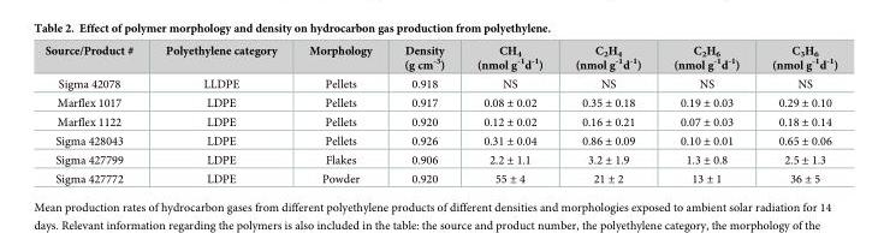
<table><thead><tr><td>Source/Product #</td><td>Polyethylene category</td><td>Morphology</td><td>Density (g cm<sup>-3</sup>)</td><td>CH<sub>4</sub> (nmol g<sup>-1</sup>d<sup>-1</sup>)</td><td>C<sub>2</sub>H<sub>4</sub> (nmol g<sup>-1</sup>d<sup>-1</sup>)</td><td>C<sub>2</sub>H<sub>6</sub> (nmol g<sup>-1</sup>d<sup>-1</sup>)</td><td>C<sub>3</sub>H<sub>6</sub> (nmol g<sup>-1</sup>d<sup>-1</sup>)</td></tr></thead><tbody><tr><td>Sigma 42078</td><td>LLDPE</td><td>Pellets</td><td>0.918</td><td>NS</td><td>NS</td><td>NS</td><td>NS</td></tr><tr><td>Marflex 1017</td><td>LDPE</td><td>Pellets</td><td>0.917</td><td>0.08 ± 0.02</td><td>0.35 ± 0.18</td><td>0.19 ± 0.03</td><td>0.29 ± 0.10</td></tr><tr><td>Marflex 1122</td><td>LDPE</td><td>Pellets</td><td>0.920</td><td>0.12 ± 0.02</td><td>0.16 ± 0.21</td><td>0.07 ± 0.03</td><td>0.18 ± 0.14</td></tr><tr><td>Sigma 428043</td><td>LDPE</td><td>Pellets</td><td>0.926</td><td>0.31 ± 0.04</td><td>0.86 ± 0.09</td><td>0.10 ± 0.01</td><td>0.65 ± 0.06</td></tr><tr><td>Sigma 427799</td><td>LDPE</td><td>Flakes</td><td>0.906</td><td>2.2 ± 1.1</td><td>3.2 ± 1.9</td><td>1.3 ± 0.8</td><td>2.5 ± 1.3</td></tr><tr><td>Sigma 427772</td><td>LDPE</td><td>Powder</td><td>0.920</td><td>55 ± 4</td><td>21 ± 2</td><td>13 ± 1</td><td>36 ± 5</td></tr></tbody></table>